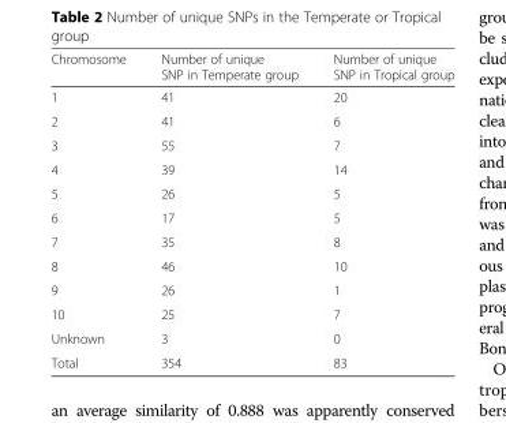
<table><thead><tr><td>Chromosome</td><td>Number of unique SNP in Temperate group</td><td>Number of unique SNP in Tropical group</td></tr></thead><tbody><tr><td>1</td><td>41</td><td>20</td></tr><tr><td>2</td><td>41</td><td>6</td></tr><tr><td>3</td><td>55</td><td>7</td></tr><tr><td>4</td><td>39</td><td>14</td></tr><tr><td>5</td><td>26</td><td>5</td></tr><tr><td>6</td><td>17</td><td>5</td></tr><tr><td>7</td><td>35</td><td>8</td></tr><tr><td>8</td><td>46</td><td>10</td></tr><tr><td>9</td><td>26</td><td>1</td></tr><tr><td>10</td><td>25</td><td>7</td></tr><tr><td>Unknown</td><td>3</td><td>0</td></tr><tr><td>Total</td><td>354</td><td>83</td></tr></tbody></table>